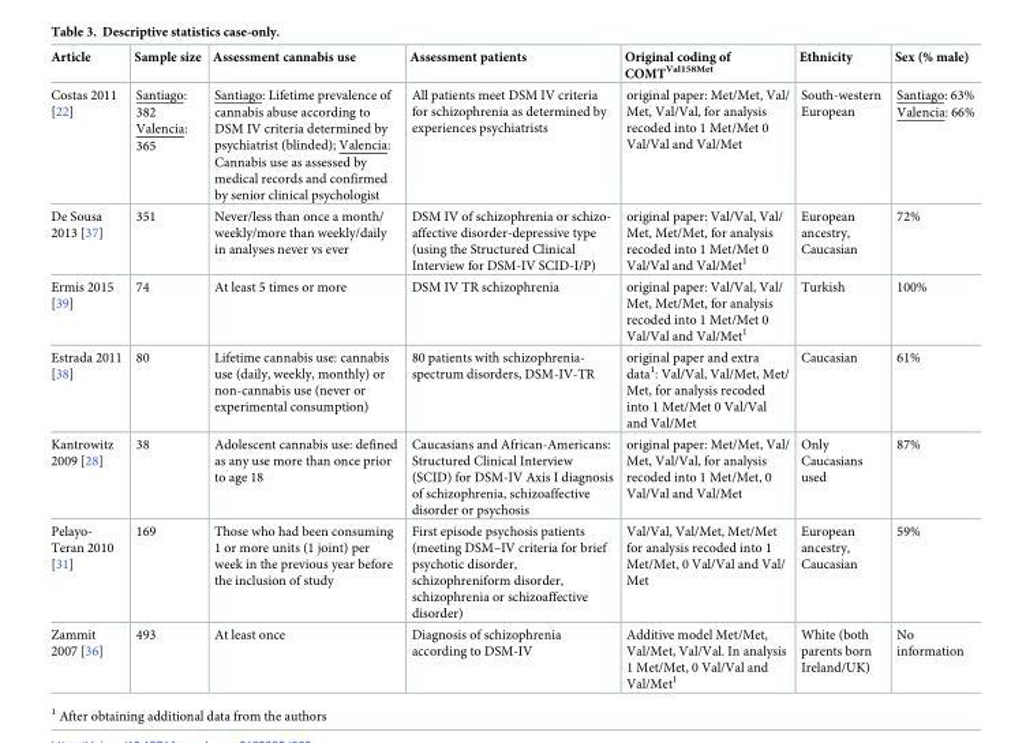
<table><thead><tr><td>Article</td><td>Sample size</td><td>Assessment cannabis use</td><td>Assessment patients</td><td>Original coding of COMT<sup>Val158Met</sup></td><td>Ethnicity</td><td>Sex (% male)</td></tr></thead><tbody><tr><td>Costas 2011 [22]</td><td>Santiago: 382 Valencia: 365</td><td>Santiago: Lifetime prevalence of cannabis abuse according to DSM IV criteria determined by psychiatrist (blinded); Valencia: Cannabis use as assessed by medical records and confirmed by senior clinical psychologist</td><td>All patients meet DSM IV criteria for schizophrenia as determined by experiences psychiatrists</td><td>original paper: Met/Met, Val/ Met, Val/Val, for analysis recoded into 1 Met/Met 0 Val/Val and Val/Met</td><td>South-western European</td><td>Santiago: 63% Valencia: 66%</td></tr><tr><td>De Sousa 2013 [37]</td><td>351</td><td>Never/less than once a month/ weekly/more than weekly/daily in analyses never vs ever</td><td>DSM IV of schizophrenia or schizo- affective disorder-depressive type (using the Structured Clinical Interview for DSM-IV SCID-I/P)</td><td>original paper: Val/Val, Val/ Met, Met/Met, for analysis recoded into 1 Met/Met 0 Val/Val and Val/Met<sup>1</sup></td><td>European ancestry, Caucasian</td><td>72%</td></tr><tr><td>Ermis 2015 [39]</td><td>74</td><td>At least 5 times or more</td><td>DSM IV TR schizophrenia</td><td>original paper: Val/Val, Val/ Met, Met/Met, for analysis recoded into 1 Met/Met 0 Val/Val and Val/Met<sup>1</sup></td><td>Turkish</td><td>100%</td></tr><tr><td>Estrada 2011 [38]</td><td>80</td><td>Lifetime cannabis use: cannabis use (daily, weekly, monthly) or non-cannabis use (never or experimental consumption)</td><td>80 patients with schizophrenia- spectrum disorders, DSM-IV-TR</td><td>original paper and extra data<sup>1</sup>: Val/Val, Val/Met, Met/ Met, for analysis recoded into 1 Met/Met 0 Val/Val and Val/Met</td><td>Caucasian</td><td>61%</td></tr><tr><td>Kantrowitz 2009 [28]</td><td>38</td><td>Adolescent cannabis use: defined as any use more than once prior to age 18</td><td>Caucasians and African-Americans: Structured Clinical Interview (SCID) for DSM-IV Axis I diagnosis of schizophrenia, schizoaffective disorder or psychosis</td><td>original paper: Met/Met, Val/ Met, Val/Val, for analysis recoded into 1 Met/Met, 0 Val/Val and Val/Met</td><td>Only Caucasians used</td><td>87%</td></tr><tr><td>Pelayo- Teran 2010 [31]</td><td>169</td><td>Those who had been consuming 1 or more units (1 joint) per week in the previous year before the inclusion of study</td><td>First episode psychosis patients (meeting DSM–IV criteria for brief psychotic disorder, schizophreniform disorder, schizophrenia or schizoaffective disorder)</td><td>Val/Val, Val/Met, Met/Met for analysis recoded into 1 Met/Met, 0 Val/Val and Val/ Met</td><td>European ancestry, Caucasian</td><td>59%</td></tr><tr><td>Zammit 2007 [36]</td><td>493</td><td>At least once</td><td>Diagnosis of schizophrenia according to DSM-IV</td><td>Additive model Met/Met, Val/Met, Val/Val. In analysis 1 Met/Met, 0 Val/Val and Val/Met<sup>1</sup></td><td>White (both parents born Ireland/UK)</td><td>No information</td></tr></tbody></table>